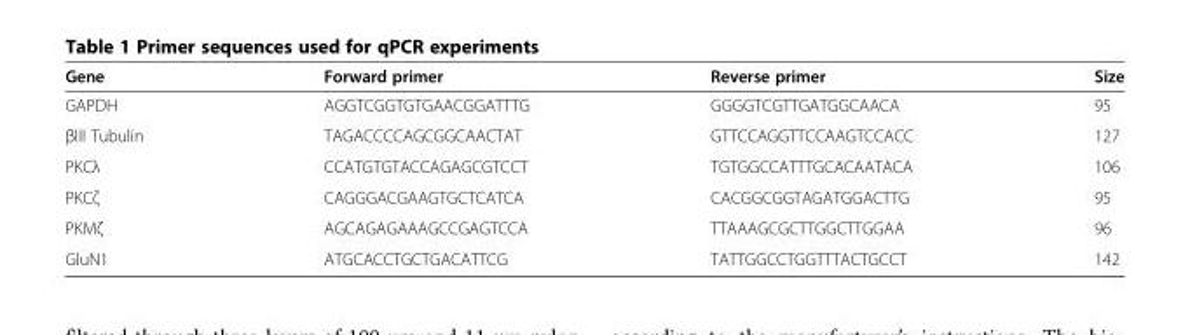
<table><thead><tr><td>Gene</td><td>Forward primer</td><td>Reverse primer</td><td>Size</td></tr></thead><tbody><tr><td>GAPDH</td><td>AGGTCGGTGTGAACGGATTTG</td><td>GGGGTCGTTGATGGCAACA</td><td>95</td></tr><tr><td>βIII Tubulin</td><td>TAGACCCCAGCGGCAACTAT</td><td>GTTCCAGGTTCCAAGTCCACC</td><td>127</td></tr><tr><td>PKCλ</td><td>CCATGTGTACCAGAGCGTCCT</td><td>TGTGGCCATTTGCACAATACA</td><td>106</td></tr><tr><td>PKCζ</td><td>CAGGGACGAAGTGCTCATCA</td><td>CACGGCGGTAGATGGACTTG</td><td>95</td></tr><tr><td>PKMζ</td><td>AGCAGAGAAAGCCGAGTCCA</td><td>TTAAAGCGCTTGGCTTGGAA</td><td>96</td></tr><tr><td>GluN1</td><td>ATGCACCTGCTGACATTCG</td><td>TATTGGCCTGGTTTACTGCCT</td><td>142</td></tr></tbody></table>